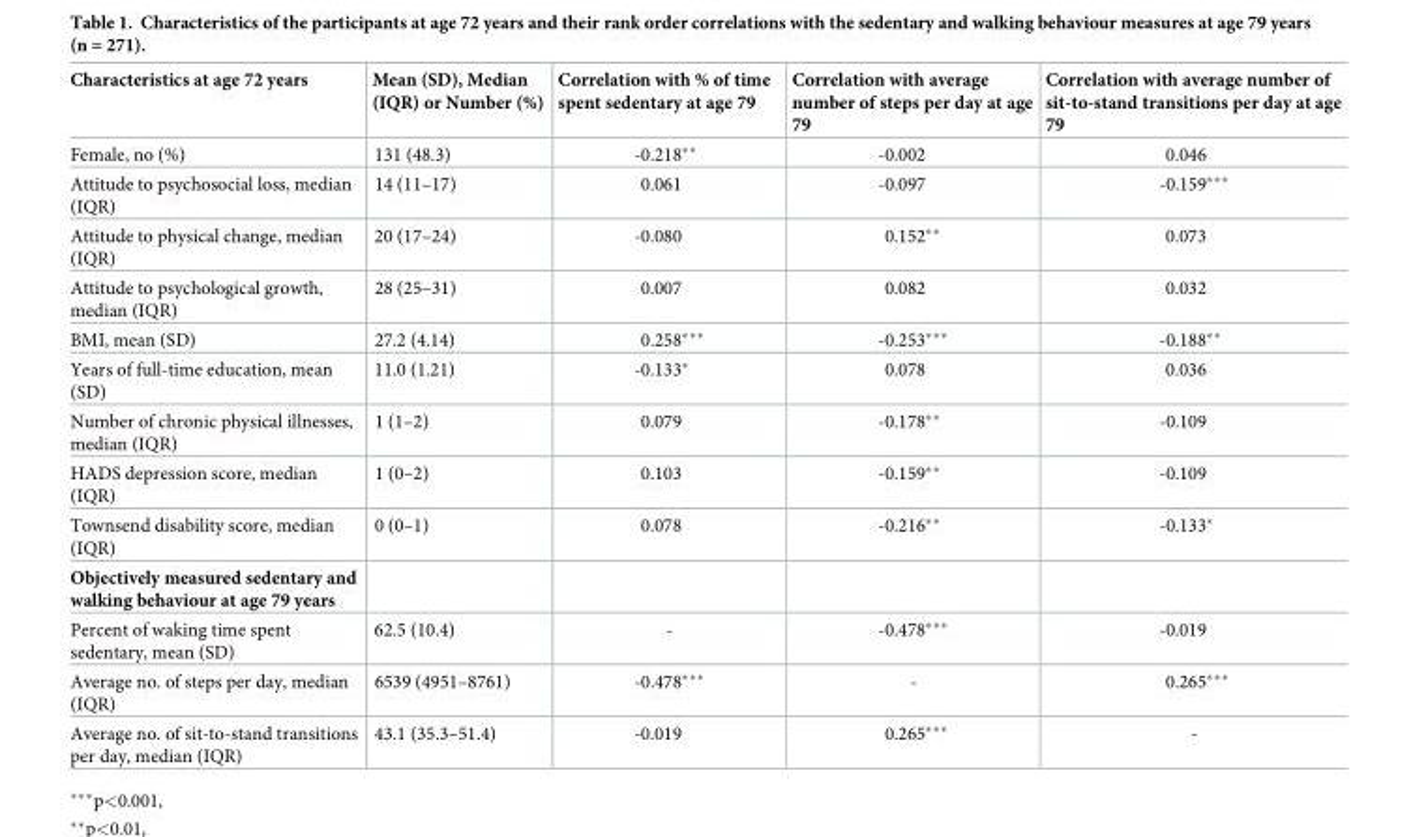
<table><thead><tr><td>Characteristics at age 72 years</td><td>Mean (SD), Median (IQR) or Number (%)</td><td>Correlation with % of time spent sedentary at age 79</td><td>Correlation with average number of steps per day at age 79</td><td>Correlation with average number of sit-to-stand transitions per day at age 79</td></tr></thead><tbody><tr><td>Female, no (%)</td><td>131 (48.3)</td><td>-0.218**</td><td>-0.002</td><td>0.046</td></tr><tr><td>Attitude to psychosocial loss, median (IQR)</td><td>14 (11–17)</td><td>0.061</td><td>-0.097</td><td>-0.159***</td></tr><tr><td>Attitude to physical change, median (IQR)</td><td>20 (17–24)</td><td>-0.080</td><td>0.152**</td><td>0.073</td></tr><tr><td>Attitude to psychological growth, median (IQR)</td><td>28 (25–31)</td><td>0.007</td><td>0.082</td><td>0.032</td></tr><tr><td>BMI, mean (SD)</td><td>27.2 (4.14)</td><td>0.258***</td><td>-0.253***</td><td>-0.188**</td></tr><tr><td>Years of full-time education, mean (SD)</td><td>11.0 (1.21)</td><td>-0.133*</td><td>0.078</td><td>0.036</td></tr><tr><td>Number of chronic physical illnesses, median (IQR)</td><td>1 (1–2)</td><td>0.079</td><td>-0.178**</td><td>-0.109</td></tr><tr><td>HADS depression score, median (IQR)</td><td>1 (0–2)</td><td>0.103</td><td>-0.159**</td><td>-0.109</td></tr><tr><td>Townsend disability score, median (IQR)</td><td>0 (0–1)</td><td>0.078</td><td>-0.216**</td><td>-0.133*</td></tr><tr><td colspan="5">Objectively measured sedentary and walking behaviour at age 79 years</td></tr><tr><td>Percent of waking time spent sedentary, mean (SD)</td><td>62.5 (10.4)</td><td>-</td><td>-0.478***</td><td>-0.019</td></tr><tr><td>Average no. of steps per day, median (IQR)</td><td>6539 (4951–8761)</td><td>-0.478***</td><td>-</td><td>0.265***</td></tr><tr><td>Average no. of sit-to-stand transitions per day, median (IQR)</td><td>43.1 (35.3–51.4)</td><td>-0.019</td><td>0.265***</td><td>-</td></tr></tbody></table>